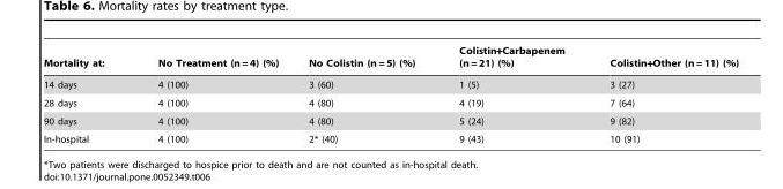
<table><thead><tr><td>Mortality at:</td><td>No Treatment (n = 4) (%)</td><td>No Colistin (n = 5) (%)</td><td>Colistin+Carbapenem (n = 21) (%)</td><td>Colistin+Other (n = 11) (%)</td></tr></thead><tbody><tr><td>14 days</td><td>4 (100)</td><td>3 (60)</td><td>1 (5)</td><td>3 (27)</td></tr><tr><td>28 days</td><td>4 (100)</td><td>4 (80)</td><td>4 (19)</td><td>7 (64)</td></tr><tr><td>90 days</td><td>4 (100)</td><td>4 (80)</td><td>5 (24)</td><td>9 (82)</td></tr><tr><td>In-hospital</td><td>4 (100)</td><td>2* (40)</td><td>9 (43)</td><td>10 (91)</td></tr></tbody></table>